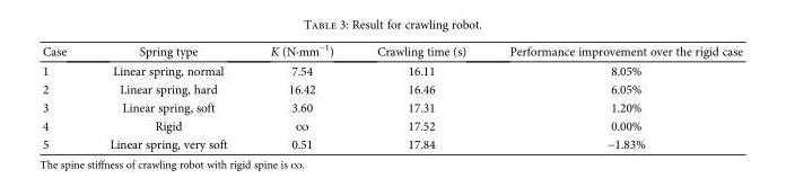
<table><thead><tr><td>Case</td><td>Spring type</td><td>K (N·mm<sup>−1</sup>)</td><td>Crawling time (s)</td><td>Performance improvement over the rigid case</td></tr></thead><tbody><tr><td>1</td><td>Linear spring, normal</td><td>7.54</td><td>16.11</td><td>8.05%</td></tr><tr><td>2</td><td>Linear spring, hard</td><td>16.42</td><td>16.46</td><td>6.05%</td></tr><tr><td>3</td><td>Linear spring, soft</td><td>3.60</td><td>17.31</td><td>1.20%</td></tr><tr><td>4</td><td>Rigid</td><td>∞</td><td>17.52</td><td>0.00%</td></tr><tr><td>5</td><td>Linear spring, very soft</td><td>0.51</td><td>17.84</td><td>−1.83%</td></tr></tbody></table>